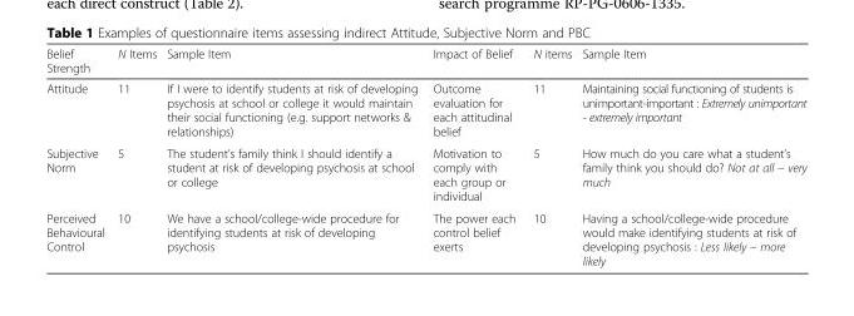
<table><thead><tr><td>Belief Strength</td><td>N Items</td><td>Sample Item</td><td>Impact of Belief</td><td>N items</td><td>Sample Item</td></tr></thead><tbody><tr><td>Attitude</td><td>11</td><td>If I were to identify students at risk of developing psychosis at school or college it would maintain their social functioning (e.g. support networks &amp; relationships)</td><td>Outcome evaluation for each attitudinal belief</td><td>11</td><td>Maintaining social functioning of students is unimportant-important : Extremely unimportant - extremely important</td></tr><tr><td>Subjective Norm</td><td>5</td><td>The student’s family think I should identify a student at risk of developing psychosis at school or college</td><td>Motivation to comply with each group or individual</td><td>5</td><td>How much do you care what a student’s family think you should do? Not at all – very much</td></tr><tr><td>Perceived Behavioural Control</td><td>10</td><td>We have a school/college-wide procedure for identifying students at risk of developing psychosis</td><td>The power each control belief exerts</td><td>10</td><td>Having a school/college-wide procedure would make identifying students at risk of developing psychosis : Less likely – more likely</td></tr></tbody></table>